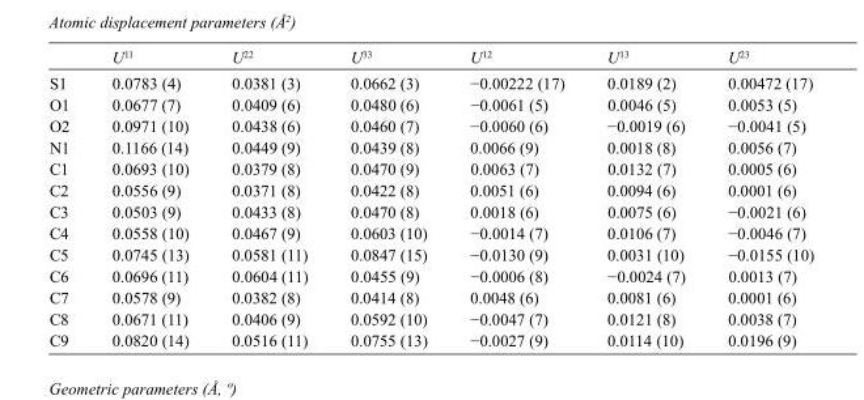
<table><thead><tr><td></td><td>U<sup>11</sup></td><td>U<sup>22</sup></td><td>U<sup>33</sup></td><td>U<sup>12</sup></td><td>U<sup>13</sup></td><td>U<sup>23</sup></td></tr></thead><tbody><tr><td>S1</td><td>0.0783 (4)</td><td>0.0381 (3)</td><td>0.0662 (3)</td><td>−0.00222 (17)</td><td>0.0189 (2)</td><td>0.00472 (17)</td></tr><tr><td>O1</td><td>0.0677 (7)</td><td>0.0409 (6)</td><td>0.0480 (6)</td><td>−0.0061 (5)</td><td>0.0046 (5)</td><td>0.0053 (5)</td></tr><tr><td>O2</td><td>0.0971 (10)</td><td>0.0438 (6)</td><td>0.0460 (7)</td><td>−0.0060 (6)</td><td>−0.0019 (6)</td><td>−0.0041 (5)</td></tr><tr><td>N1</td><td>0.1166 (14)</td><td>0.0449 (9)</td><td>0.0439 (8)</td><td>0.0066 (9)</td><td>0.0018 (8)</td><td>0.0056 (7)</td></tr><tr><td>C1</td><td>0.0693 (10)</td><td>0.0379 (8)</td><td>0.0470 (9)</td><td>0.0063 (7)</td><td>0.0132 (7)</td><td>0.0005 (6)</td></tr><tr><td>C2</td><td>0.0556 (9)</td><td>0.0371 (8)</td><td>0.0422 (8)</td><td>0.0051 (6)</td><td>0.0094 (6)</td><td>0.0001 (6)</td></tr><tr><td>C3</td><td>0.0503 (9)</td><td>0.0433 (8)</td><td>0.0470 (8)</td><td>0.0018 (6)</td><td>0.0075 (6)</td><td>−0.0021 (6)</td></tr><tr><td>C4</td><td>0.0558 (10)</td><td>0.0467 (9)</td><td>0.0603 (10)</td><td>−0.0014 (7)</td><td>0.0106 (7)</td><td>−0.0046 (7)</td></tr><tr><td>C5</td><td>0.0745 (13)</td><td>0.0581 (11)</td><td>0.0847 (15)</td><td>−0.0130 (9)</td><td>0.0031 (10)</td><td>−0.0155 (10)</td></tr><tr><td>C6</td><td>0.0696 (11)</td><td>0.0604 (11)</td><td>0.0455 (9)</td><td>−0.0006 (8)</td><td>−0.0024 (7)</td><td>0.0013 (7)</td></tr><tr><td>C7</td><td>0.0578 (9)</td><td>0.0382 (8)</td><td>0.0414 (8)</td><td>0.0048 (6)</td><td>0.0081 (6)</td><td>0.0001 (6)</td></tr><tr><td>C8</td><td>0.0671 (11)</td><td>0.0406 (9)</td><td>0.0592 (10)</td><td>−0.0047 (7)</td><td>0.0121 (8)</td><td>0.0038 (7)</td></tr><tr><td>C9</td><td>0.0820 (14)</td><td>0.0516 (11)</td><td>0.0755 (13)</td><td>−0.0027 (9)</td><td>0.0114 (10)</td><td>0.0196 (9)</td></tr></tbody></table>